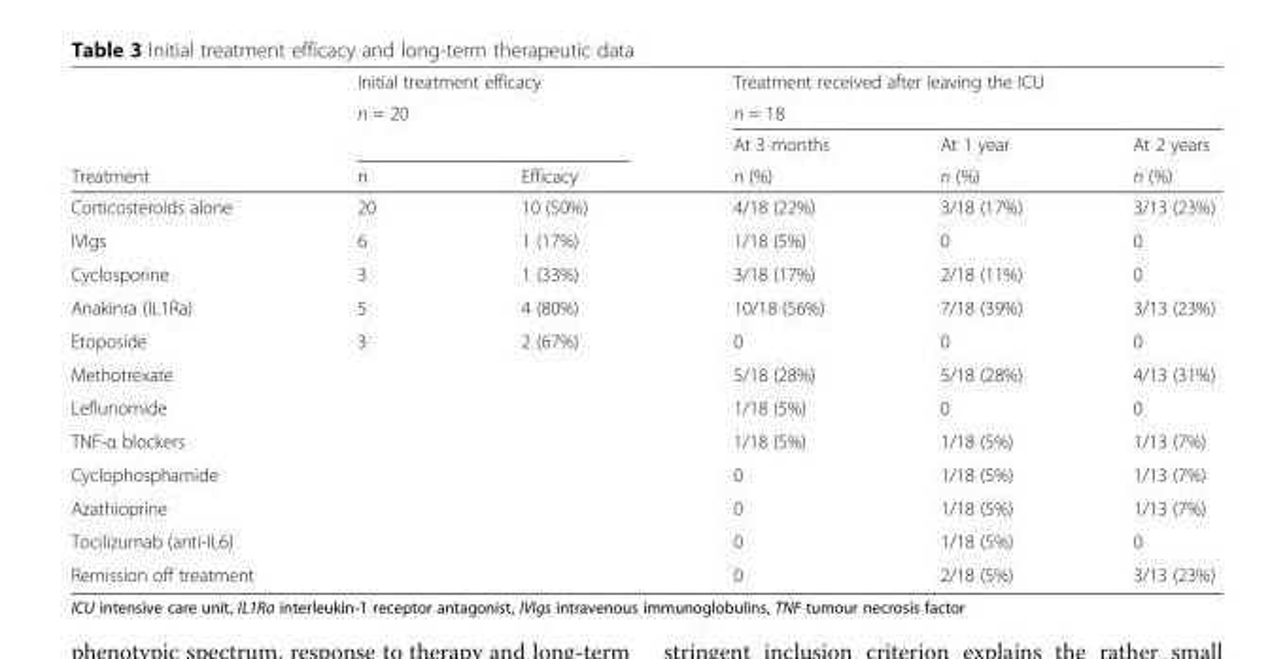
<table><thead><tr><td rowspan="4">Treatment</td><td rowspan="2" colspan="2">Initial treatment efficacy n = 20</td><td rowspan="2" colspan="3">Treatment received after leaving the ICU n = 18</td></tr><tr></tr><tr><td rowspan="2">n</td><td rowspan="2">Efficacy</td><td rowspan="2">At 3 months n (%)</td><td rowspan="2">At 1 year n (%)</td><td rowspan="2">At 2 years n (%)</td></tr><tr></tr></thead><tbody><tr><td>Corticosteroids alone</td><td>20</td><td>10 (50%)</td><td>4/18 (22%)</td><td>3/18 (17%)</td><td>3/13 (23%)</td></tr><tr><td>IVIgs</td><td>6</td><td>1 (17%)</td><td>1/18 (5%)</td><td>0</td><td>0</td></tr><tr><td>Cyclosporine</td><td>3</td><td>1 (33%)</td><td>3/18 (17%)</td><td>2/18 (11%)</td><td>0</td></tr><tr><td>Anakinra (IL1Ra)</td><td>5</td><td>4 (80%)</td><td>10/18 (56%)</td><td>7/18 (39%)</td><td>3/13 (23%)</td></tr><tr><td>Etoposide</td><td>3</td><td>2 (67%)</td><td>0</td><td>0</td><td>0</td></tr><tr><td>Methotrexate</td><td rowspan="2" colspan="2"></td><td>5/18 (28%)</td><td>5/18 (28%)</td><td>4/13 (31%)</td></tr><tr><td>Leflunomide</td><td>1/18 (5%)</td><td>0</td><td>0</td></tr><tr><td>TNF-α blockers</td><td rowspan="2" colspan="2"></td><td>1/18 (5%)</td><td>1/18 (5%)</td><td>1/13 (7%)</td></tr><tr><td>Cyclophosphamide</td><td>0</td><td>1/18 (5%)</td><td>1/13 (7%)</td></tr><tr><td>Azathioprine</td><td rowspan="3" colspan="2"></td><td>0</td><td>1/18 (5%)</td><td>1/13 (7%)</td></tr><tr><td>Tocilizumab (anti-IL6)</td><td>0</td><td>1/18 (5%)</td><td>0</td></tr><tr><td>Remission off treatment</td><td>0</td><td>2/18 (5%)</td><td>3/13 (23%)</td></tr></tbody></table>